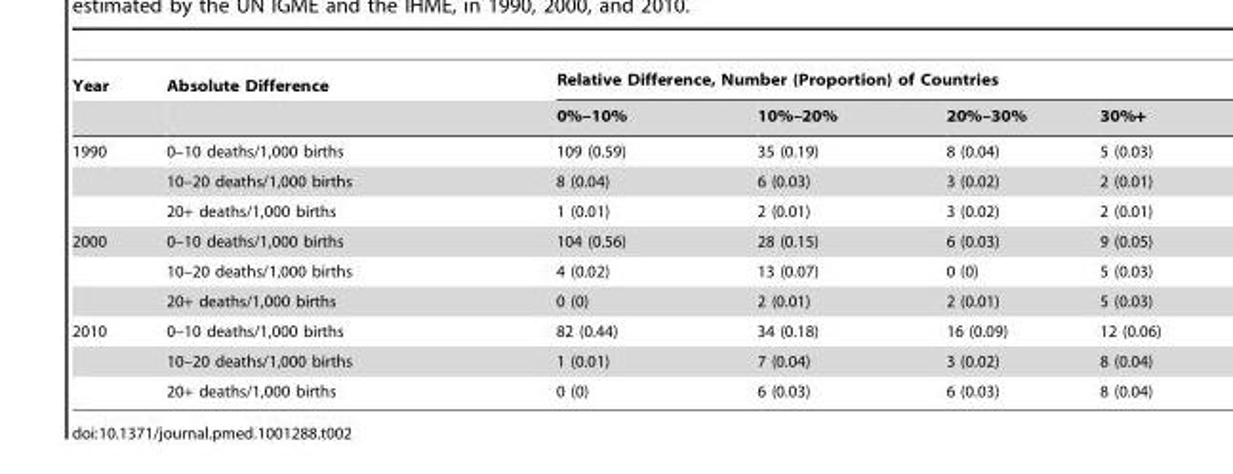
<table><thead><tr><td rowspan="2">Year</td><td rowspan="2">Absolute Difference</td><td colspan="4">Relative Difference, Number (Proportion) of Countries</td></tr><tr><td>0%–10%</td><td>10%–20%</td><td>20%–30%</td><td>30%+</td></tr></thead><tbody><tr><td rowspan="3">1990</td><td>0–10 deaths/1,000 births</td><td>109 (0.59)</td><td>35 (0.19)</td><td>8 (0.04)</td><td>5 (0.03)</td></tr><tr><td>10–20 deaths/1,000 births</td><td>8 (0.04)</td><td>6 (0.03)</td><td>3 (0.02)</td><td>2 (0.01)</td></tr><tr><td>20+ deaths/1,000 births</td><td>1 (0.01)</td><td>2 (0.01)</td><td>3 (0.02)</td><td>2 (0.01)</td></tr><tr><td rowspan="3">2000</td><td>0–10 deaths/1,000 births</td><td>104 (0.56)</td><td>28 (0.15)</td><td>6 (0.03)</td><td>9 (0.05)</td></tr><tr><td>10–20 deaths/1,000 births</td><td>4 (0.02)</td><td>13 (0.07)</td><td>0 (0)</td><td>5 (0.03)</td></tr><tr><td>20+ deaths/1,000 births</td><td>0 (0)</td><td>2 (0.01)</td><td>2 (0.01)</td><td>5 (0.03)</td></tr><tr><td rowspan="3">2010</td><td>0–10 deaths/1,000 births</td><td>82 (0.44)</td><td>34 (0.18)</td><td>16 (0.09)</td><td>12 (0.06)</td></tr><tr><td>10–20 deaths/1,000 births</td><td>1 (0.01)</td><td>7 (0.04)</td><td>3 (0.02)</td><td>8 (0.04)</td></tr><tr><td>20+ deaths/1,000 births</td><td>0 (0)</td><td>6 (0.03)</td><td>6 (0.03)</td><td>8 (0.04)</td></tr></tbody></table>